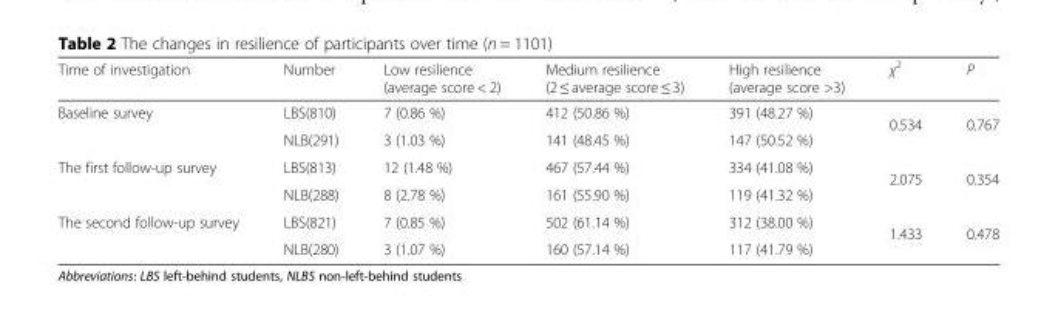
<table><thead><tr><td>Time of investigation</td><td>Number</td><td>Low resilience (average score &lt; 2)</td><td>Medium resilience (2 ≤ average score ≤ 3)</td><td>High resilience (average score &gt;3)</td><td>χ<sup>2</sup></td><td>P</td></tr></thead><tbody><tr><td rowspan="2">Baseline survey</td><td>LBS(810)</td><td>7 (0.86 %)</td><td>412 (50.86 %)</td><td>391 (48.27 %)</td><td rowspan="2">0.534</td><td rowspan="2">0.767</td></tr><tr><td>NLB(291)</td><td>3 (1.03 %)</td><td>141 (48.45 %)</td><td>147 (50.52 %)</td></tr><tr><td rowspan="2">The first follow-up survey</td><td>LBS(813)</td><td>12 (1.48 %)</td><td>467 (57.44 %)</td><td>334 (41.08 %)</td><td rowspan="2">2.075</td><td rowspan="2">0.354</td></tr><tr><td>NLB(288)</td><td>8 (2.78 %)</td><td>161 (55.90 %)</td><td>119 (41.32 %)</td></tr><tr><td rowspan="2">The second follow-up survey</td><td>LBS(821)</td><td>7 (0.85 %)</td><td>502 (61.14 %)</td><td>312 (38.00 %)</td><td rowspan="2">1.433</td><td rowspan="2">0.478</td></tr><tr><td>NLB(280)</td><td>3 (1.07 %)</td><td>160 (57.14 %)</td><td>117 (41.79 %)</td></tr></tbody></table>